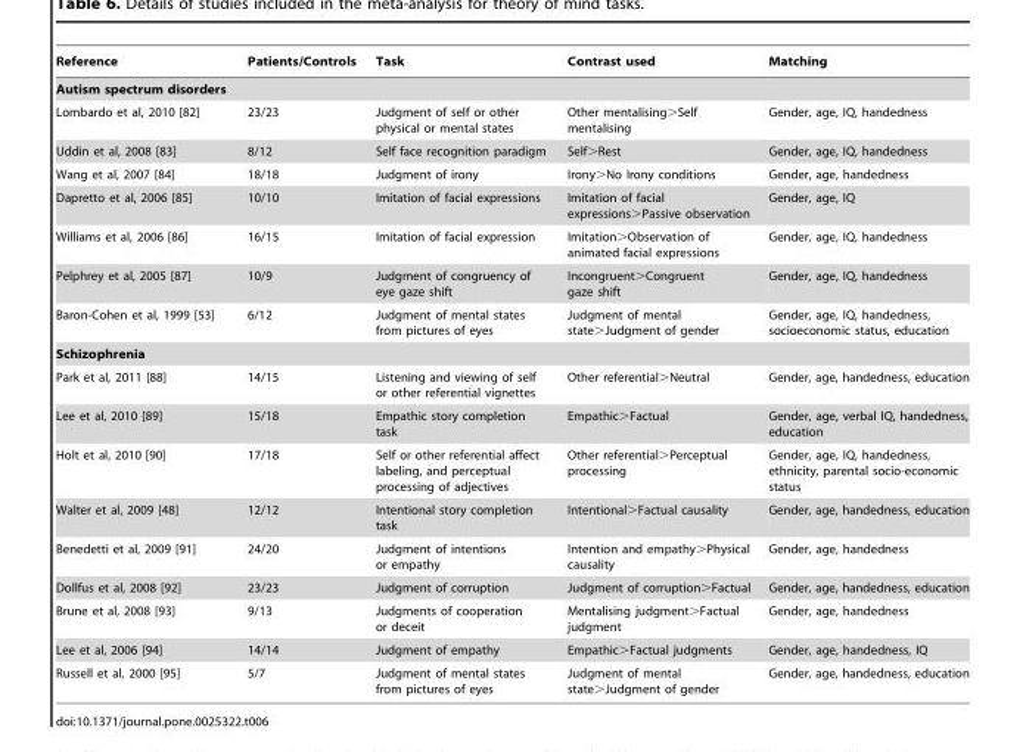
<table><thead><tr><td>Reference</td><td>Patients/Controls</td><td>Task</td><td>Contrast used</td><td>Matching</td></tr></thead><tbody><tr><td colspan="5">Autism spectrum disorders</td></tr><tr><td>Lombardo et al, 2010 [82]</td><td>23/23</td><td>Judgment of self or other physical or mental states</td><td>Other mentalising&gt;Self mentalising</td><td>Gender, age, IQ, handedness</td></tr><tr><td>Uddin et al, 2008 [83]</td><td>8/12</td><td>Self face recognition paradigm</td><td>Self&gt;Rest</td><td>Gender, age, IQ, handedness</td></tr><tr><td>Wang et al, 2007 [84]</td><td>18/18</td><td>Judgment of irony</td><td>Irony&gt;No Irony conditions</td><td>Gender, age, handedness</td></tr><tr><td>Dapretto et al, 2006 [85]</td><td>10/10</td><td>Imitation of facial expressions</td><td>Imitation of facial expressions&gt;Passive observation</td><td>Gender, age, IQ</td></tr><tr><td>Williams et al, 2006 [86]</td><td>16/15</td><td>Imitation of facial expression</td><td>Imitation&gt;Observation of animated facial expressions</td><td>Gender, age, IQ, handedness</td></tr><tr><td>Pelphrey et al, 2005 [87]</td><td>10/9</td><td>Judgment of congruency of eye gaze shift</td><td>Incongruent&gt;Congruent gaze shift</td><td>Gender, age, IQ, handedness</td></tr><tr><td>Baron-Cohen et al, 1999 [53]</td><td>6/12</td><td>Judgment of mental states from pictures of eyes</td><td>Judgment of mental state&gt;Judgment of gender</td><td>Gender, age, IQ, handedness, socioeconomic status, education</td></tr><tr><td colspan="5">Schizophrenia</td></tr><tr><td>Park et al, 2011 [88]</td><td>14/15</td><td>Listening and viewing of self or other referential vignettes</td><td>Other referential&gt;Neutral</td><td>Gender, age, handedness, education</td></tr><tr><td>Lee et al, 2010 [89]</td><td>15/18</td><td>Empathic story completion task</td><td>Empathic&gt;Factual</td><td>Gender, age, verbal IQ, handedness, education</td></tr><tr><td>Holt et al, 2010 [90]</td><td>17/18</td><td>Self or other referential affect labeling, and perceptual processing of adjectives</td><td>Other referential&gt;Perceptual processing</td><td>Gender, age, IQ, handedness, ethnicity, parental socio-economic status</td></tr><tr><td>Walter et al, 2009 [48]</td><td>12/12</td><td>Intentional story completion task</td><td>Intentional&gt;Factual causality</td><td>Gender, age, handedness, education</td></tr><tr><td>Benedetti et al, 2009 [91]</td><td>24/20</td><td>Judgment of intentions or empathy</td><td>Intention and empathy&gt;Physical causality</td><td>Gender, age, handedness</td></tr><tr><td>Dollfus et al, 2008 [92]</td><td>23/23</td><td>Judgment of corruption</td><td>Judgment of corruption&gt;Factual</td><td>Gender, age, handedness, education</td></tr><tr><td>Brune et al, 2008 [93]</td><td>9/13</td><td>Judgments of cooperation or deceit</td><td>Mentalising judgment&gt;Factual judgment</td><td>Gender, age, handedness</td></tr><tr><td>Lee et al, 2006 [94]</td><td>14/14</td><td>Judgment of empathy</td><td>Empathic&gt;Factual judgments</td><td>Gender, age, handedness, IQ</td></tr><tr><td>Russell et al, 2000 [95]</td><td>5/7</td><td>Judgment of mental states from pictures of eyes</td><td>Judgment of mental state&gt;Judgment of gender</td><td>Gender, age, handedness, education</td></tr></tbody></table>